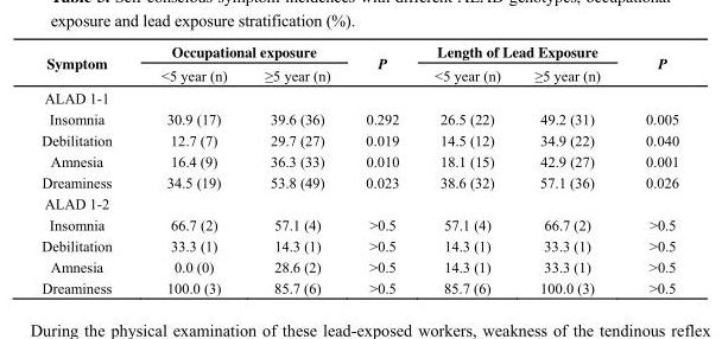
<table><thead><tr><td rowspan="2">Symptom</td><td colspan="2">Occupational exposure</td><td rowspan="2">P</td><td colspan="2">Length of Lead Exposure</td><td rowspan="2">P</td></tr><tr><td>&lt;5 year (n)</td><td>≥5 year (n)</td><td>&lt;5 year (n)</td><td>≥5 year (n)</td></tr></thead><tbody><tr><td colspan="7">ALAD 1-1</td></tr><tr><td>Insomnia</td><td>30.9 (17)</td><td>39.6 (36)</td><td>0.292</td><td>26.5 (22)</td><td>49.2 (31)</td><td>0.005</td></tr><tr><td>Debilitation</td><td>12.7 (7)</td><td>29.7 (27)</td><td>0.019</td><td>14.5 (12)</td><td>34.9 (22)</td><td>0.040</td></tr><tr><td>Amnesia</td><td>16.4 (9)</td><td>36.3 (33)</td><td>0.010</td><td>18.1 (15)</td><td>42.9 (27)</td><td>0.001</td></tr><tr><td>Dreaminess</td><td>34.5 (19)</td><td>53.8 (49)</td><td>0.023</td><td>38.6 (32)</td><td>57.1 (36)</td><td>0.026</td></tr><tr><td colspan="7">ALAD 1-2</td></tr><tr><td>Insomnia</td><td>66.7 (2)</td><td>57.1 (4)</td><td>&gt;0.5</td><td>57.1 (4)</td><td>66.7 (2)</td><td>&gt;0.5</td></tr><tr><td>Debilitation</td><td>33.3 (1)</td><td>14.3 (1)</td><td>&gt;0.5</td><td>14.3 (1)</td><td>33.3 (1)</td><td>&gt;0.5</td></tr><tr><td>Amnesia</td><td>0.0 (0)</td><td>28.6 (2)</td><td>&gt;0.5</td><td>14.3 (1)</td><td>33.3 (1)</td><td>&gt;0.5</td></tr><tr><td>Dreaminess</td><td>100.0 (3)</td><td>85.7 (6)</td><td>&gt;0.5</td><td>85.7 (6)</td><td>100.0 (3)</td><td>&gt;0.5</td></tr></tbody></table>